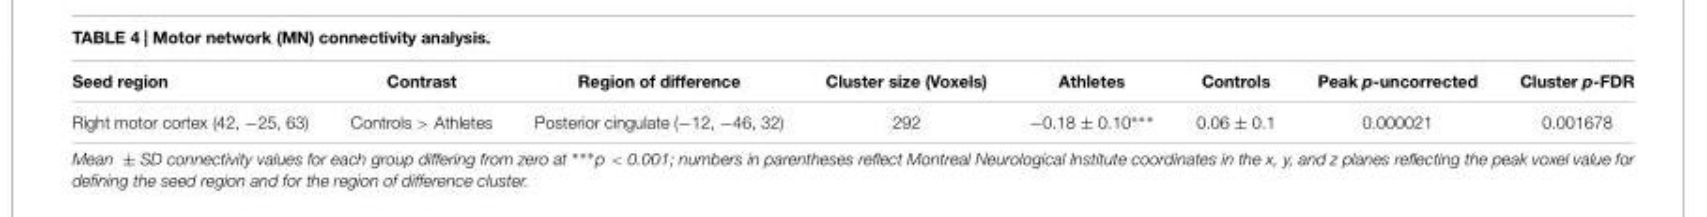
<table><thead><tr><td>Seed region</td><td>Contrast</td><td>Region of difference</td><td>Cluster size (Voxels)</td><td>Athletes</td><td>Controls</td><td>Peak p-uncorrected</td><td>Cluster p-FDR</td></tr></thead><tbody><tr><td>Right motor cortex (42, −25, 63)</td><td>Controls &gt; Athletes</td><td>Posterior cingulate (−12, −46, 32)</td><td>292</td><td>−0.18 ± 0.10∗∗∗</td><td>0.06 ± 0.1</td><td>0.000021</td><td>0.001678</td></tr></tbody></table>